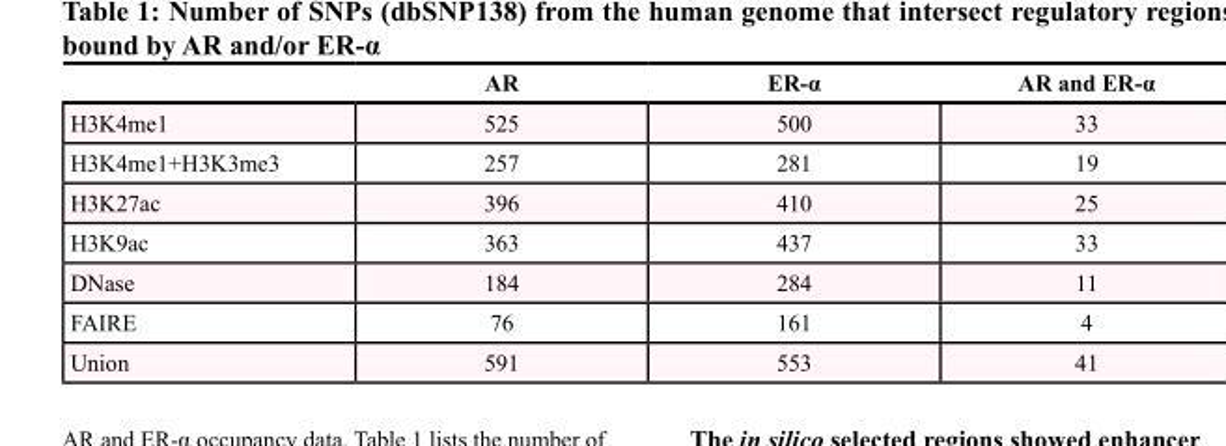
<table><thead><tr><td></td><td>AR</td><td>ER-α</td><td>AR and ER-α</td></tr></thead><tbody><tr><td>H3K4me1</td><td>525</td><td>500</td><td>33</td></tr><tr><td>H3K4me1+H3K3me3</td><td>257</td><td>281</td><td>19</td></tr><tr><td>H3K27ac</td><td>396</td><td>410</td><td>25</td></tr><tr><td>H3K9ac</td><td>363</td><td>437</td><td>33</td></tr><tr><td>DNase</td><td>184</td><td>284</td><td>11</td></tr><tr><td>FAIRE</td><td>76</td><td>161</td><td>4</td></tr><tr><td>Union</td><td>591</td><td>553</td><td>41</td></tr></tbody></table>